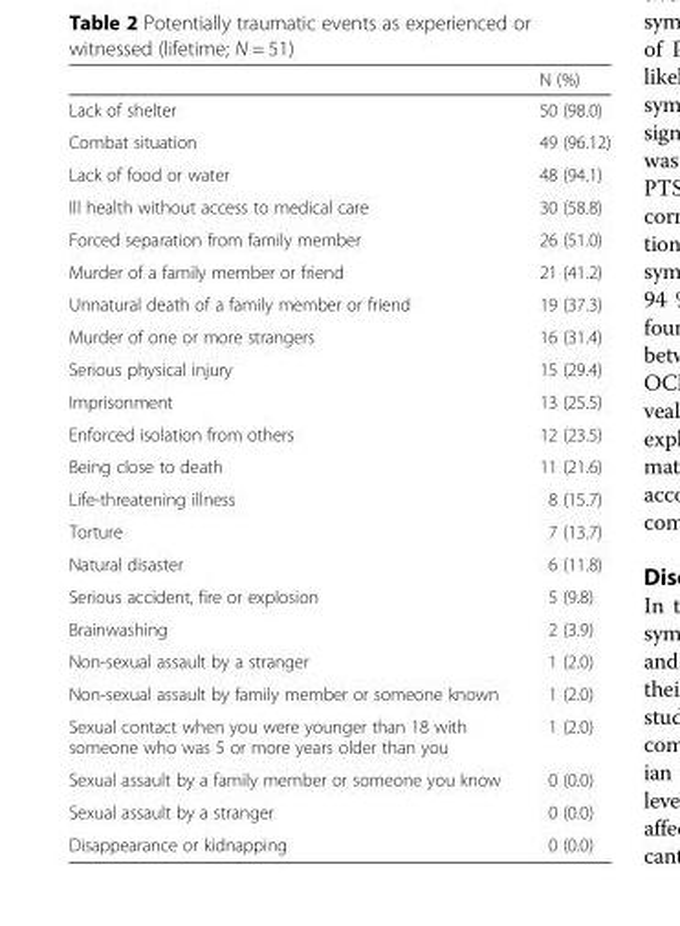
<table><thead><tr><td></td><td>N (%)</td></tr></thead><tbody><tr><td>Lack of shelter</td><td>50 (98.0)</td></tr><tr><td>Combat situation</td><td>49 (96.12)</td></tr><tr><td>Lack of food or water</td><td>48 (94.1)</td></tr><tr><td>Ill health without access to medical care</td><td>30 (58.8)</td></tr><tr><td>Forced separation from family member</td><td>26 (51.0)</td></tr><tr><td>Murder of a family member or friend</td><td>21 (41.2)</td></tr><tr><td>Unnatural death of a family member or friend</td><td>19 (37.3)</td></tr><tr><td>Murder of one or more strangers</td><td>16 (31.4)</td></tr><tr><td>Serious physical injury</td><td>15 (29.4)</td></tr><tr><td>Imprisonment</td><td>13 (25.5)</td></tr><tr><td>Enforced isolation from others</td><td>12 (23.5)</td></tr><tr><td>Being close to death</td><td>11 (21.6)</td></tr><tr><td>Life-threatening illness</td><td>8 (15.7)</td></tr><tr><td>Torture</td><td>7 (13.7)</td></tr><tr><td>Natural disaster</td><td>6 (11.8)</td></tr><tr><td>Serious accident, fire or explosion</td><td>5 (9.8)</td></tr><tr><td>Brainwashing</td><td>2 (3.9)</td></tr><tr><td>Non-sexual assault by a stranger</td><td>1 (2.0)</td></tr><tr><td>Non-sexual assault by family member or someone known</td><td>1 (2.0)</td></tr><tr><td>Sexual contact when you were younger than 18 with someone who was 5 or more years older than you</td><td>1 (2.0)</td></tr><tr><td>Sexual assault by a family member or someone you know</td><td>0 (0.0)</td></tr><tr><td>Sexual assault by a stranger</td><td>0 (0.0)</td></tr><tr><td>Disappearance or kidnapping</td><td>0 (0.0)</td></tr></tbody></table>